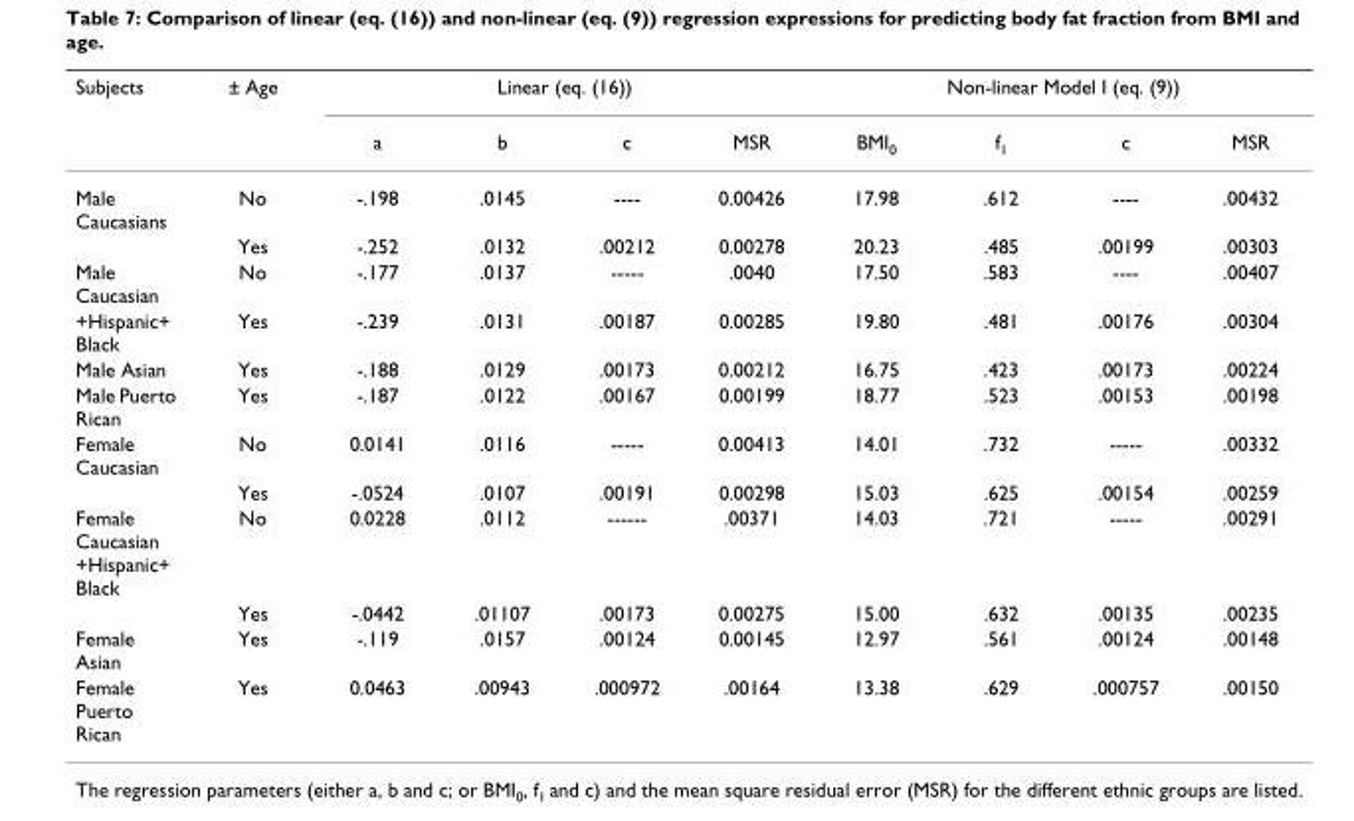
<table><thead><tr><td rowspan="2">Subjects</td><td rowspan="2">± Age</td><td colspan="4">Linear (eq. (16))</td><td colspan="4">Non-linear Model I (eq. (9))</td></tr><tr><td>a</td><td>b</td><td>c</td><td>MSR</td><td>BMI<sub>0</sub></td><td>f<sub>1</sub></td><td>c</td><td>MSR</td></tr></thead><tbody><tr><td rowspan="2">Male Caucasians</td><td>No</td><td>-.198</td><td>.0145</td><td>----</td><td>0.00426</td><td>17.98</td><td>.612</td><td>----</td><td>.00432</td></tr><tr><td>Yes</td><td>-.252</td><td>.0132</td><td>.00212</td><td>0.00278</td><td>20.23</td><td>.485</td><td>.00199</td><td>.00303</td></tr><tr><td>Male Caucasian</td><td>No</td><td>-.177</td><td>.0137</td><td>-----</td><td>.0040</td><td>17.50</td><td>.583</td><td>----</td><td>.00407</td></tr><tr><td>+Hispanic+ Black</td><td>Yes</td><td>-.239</td><td>.0131</td><td>.00187</td><td>0.00285</td><td>19.80</td><td>.481</td><td>.00176</td><td>.00304</td></tr><tr><td>Male Asian</td><td>Yes</td><td>-.188</td><td>.0129</td><td>.00173</td><td>0.00212</td><td>16.75</td><td>.423</td><td>.00173</td><td>.00224</td></tr><tr><td>Male Puerto Rican</td><td>Yes</td><td>-.187</td><td>.0122</td><td>.00167</td><td>0.00199</td><td>18.77</td><td>.523</td><td>.00153</td><td>.00198</td></tr><tr><td rowspan="2">Female Caucasian</td><td>No</td><td>0.0141</td><td>.0116</td><td>-----</td><td>0.00413</td><td>14.01</td><td>.732</td><td>-----</td><td>.00332</td></tr><tr><td>Yes</td><td>-.0524</td><td>.0107</td><td>.00191</td><td>0.00298</td><td>15.03</td><td>.625</td><td>.00154</td><td>.00259</td></tr><tr><td rowspan="2">Female Caucasian +Hispanic+ Black</td><td>No</td><td>0.0228</td><td>.0112</td><td>------</td><td>.00371</td><td>14.03</td><td>.721</td><td>-----</td><td>.00291</td></tr><tr><td>Yes</td><td>-.0442</td><td>.01107</td><td>.00173</td><td>0.00275</td><td>15.00</td><td>.632</td><td>.00135</td><td>.00235</td></tr><tr><td>Female Asian</td><td>Yes</td><td>-.119</td><td>.0157</td><td>.00124</td><td>0.00145</td><td>12.97</td><td>.561</td><td>.00124</td><td>.00148</td></tr><tr><td>Female Puerto Rican</td><td>Yes</td><td>0.0463</td><td>.00943</td><td>.000972</td><td>.00164</td><td>13.38</td><td>.629</td><td>.000757</td><td>.00150</td></tr></tbody></table>